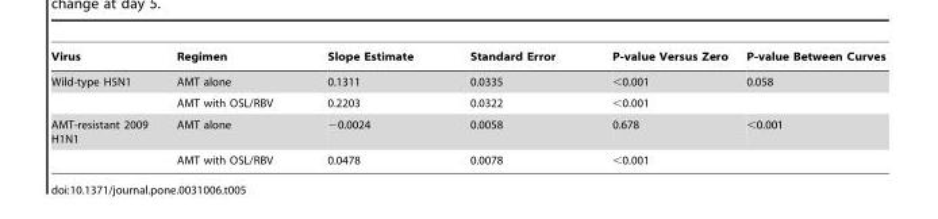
<table><thead><tr><td>Virus</td><td>Regimen</td><td>Slope Estimate</td><td>Standard Error</td><td>P-value Versus Zero</td><td>P-value Between Curves</td></tr></thead><tbody><tr><td rowspan="2">Wild-type H5N1</td><td>AMT alone</td><td>0.1311</td><td>0.0335</td><td>&lt;0.001</td><td>0.058</td></tr><tr><td>AMT with OSL/RBV</td><td>0.2203</td><td>0.0322</td><td>&lt;0.001</td><td></td></tr><tr><td rowspan="2">AMT-resistant 2009 H1N1</td><td>AMT alone</td><td>−0.0024</td><td>0.0058</td><td>0.678</td><td>&lt;0.001</td></tr><tr><td>AMT with OSL/RBV</td><td>0.0478</td><td>0.0078</td><td>&lt;0.001</td><td></td></tr></tbody></table>